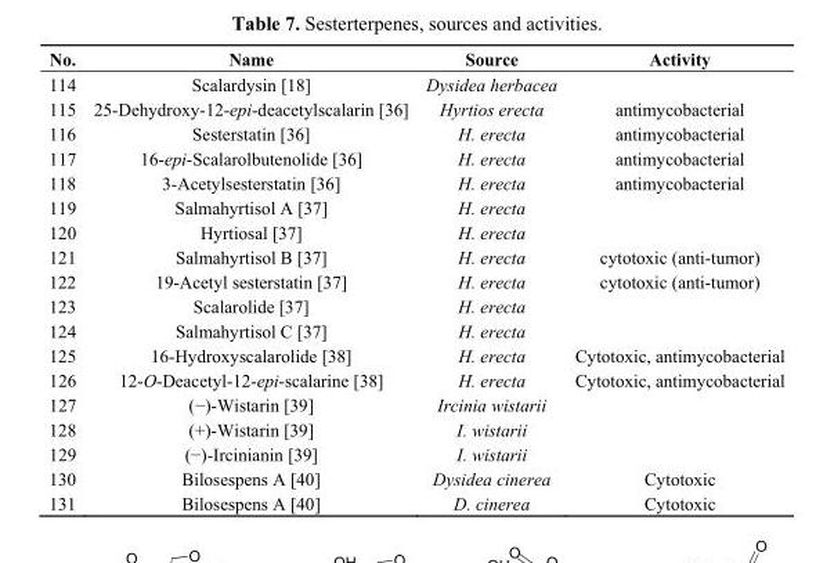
<table><thead><tr><td>No.</td><td>Name</td><td>Source</td><td>Activity</td></tr></thead><tbody><tr><td>114</td><td>Scalardysin [18]</td><td>Dysidea herbacea</td><td></td></tr><tr><td>115</td><td>25-Dehydroxy-12-epi-deacetylscalarin [36]</td><td>Hyrtios erecta</td><td>antimycobacterial</td></tr><tr><td>116</td><td>Sesterstatin [36]</td><td>H. erecta</td><td>antimycobacterial</td></tr><tr><td>117</td><td>16-epi-Scalarolbutenolide [36]</td><td>H. erecta</td><td>antimycobacterial</td></tr><tr><td>118</td><td>3-Acetylsesterstatin [36]</td><td>H. erecta</td><td>antimycobacterial</td></tr><tr><td>119</td><td>Salmahyrtisol A [37]</td><td>H. erecta</td><td></td></tr><tr><td>120</td><td>Hyrtiosal [37]</td><td>H. erecta</td><td></td></tr><tr><td>121</td><td>Salmahyrtisol B [37]</td><td>H. erecta</td><td>cytotoxic (anti-tumor)</td></tr><tr><td>122</td><td>19-Acetyl sesterstatin [37]</td><td>H. erecta</td><td>cytotoxic (anti-tumor)</td></tr><tr><td>123</td><td>Scalarolide [37]</td><td>H. erecta</td><td></td></tr><tr><td>124</td><td>Salmahyrtisol C [37]</td><td>H. erecta</td><td></td></tr><tr><td>125</td><td>16-Hydroxyscalarolide [38]</td><td>H. erecta</td><td>Cytotoxic, antimycobacterial</td></tr><tr><td>126</td><td>12-O-Deacetyl-12-epi-scalarine [38]</td><td>H. erecta</td><td>Cytotoxic, antimycobacterial</td></tr><tr><td>127</td><td>(−)-Wistarin [39]</td><td>Ircinia wistarii</td><td></td></tr><tr><td>128</td><td>(+)-Wistarin [39]</td><td>I. wistarii</td><td></td></tr><tr><td>129</td><td>(−)-Ircinianin [39]</td><td>I. wistarii</td><td></td></tr><tr><td>130</td><td>Bilosespens A [40]</td><td>Dysidea cinerea</td><td>Cytotoxic</td></tr><tr><td>131</td><td>Bilosespens A [40]</td><td>D. cinerea</td><td>Cytotoxic</td></tr></tbody></table>